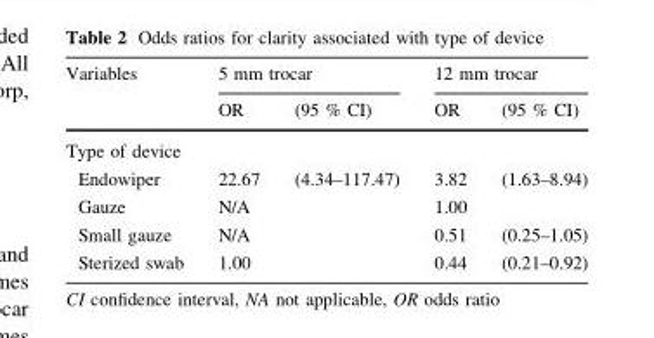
<table><thead><tr><td rowspan="2">Variables</td><td colspan="2">5 mm trocar</td><td colspan="2">12 mm trocar</td></tr><tr><td>OR</td><td>(95 % CI)</td><td>OR</td><td>(95 % CI)</td></tr></thead><tbody><tr><td colspan="5">Type of device</td></tr><tr><td>Endowiper</td><td>22.67</td><td>(4.34–117.47)</td><td>3.82</td><td>(1.63–8.94)</td></tr><tr><td>Gauze</td><td>N/A</td><td></td><td>1.00</td><td></td></tr><tr><td>Small gauze</td><td>N/A</td><td></td><td>0.51</td><td>(0.25–1.05)</td></tr><tr><td>Sterized swab</td><td>1.00</td><td></td><td>0.44</td><td>(0.21–0.92)</td></tr></tbody></table>